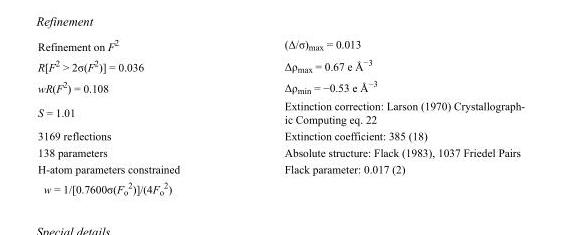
<table><tbody><tr><td>Refinement on F<sup>2</sup></td><td>(Δ/σ)<sub>max</sub> = 0.013</td></tr><tr><td>R[F<sup>2</sup> &gt; 2σ(F<sup>2</sup>)] = 0.036</td><td>Δρ<sub>max</sub> = 0.67 e Å<sup>−3</sup></td></tr><tr><td>wR(F<sup>2</sup>) = 0.108</td><td>Δρ<sub>min</sub> = −0.53 e Å<sup>−3</sup></td></tr><tr><td>S = 1.01</td><td>Extinction correction: Larson (1970) Crystallograph- ic Computing eq. 22</td></tr><tr><td>3169 reflections</td><td>Extinction coefficient: 385 (18)</td></tr><tr><td>138 parameters</td><td>Absolute structure: Flack (1983), 1037 Friedel Pairs</td></tr><tr><td>H-atom parameters constrained</td><td>Flack parameter: 0.017 (2)</td></tr><tr><td>w = 1/[0.7600σ(F<sub>o</sub> <sup>2</sup>)]/(4F<sub>o</sub> <sup>2</sup>)</td><td></td></tr></tbody></table>